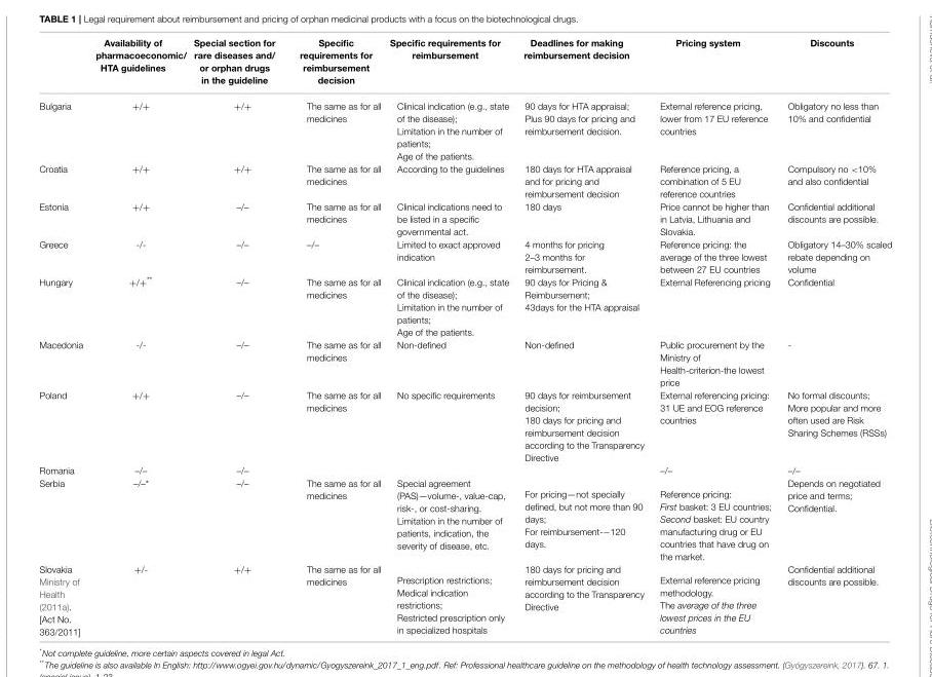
<table><thead><tr><td></td><td>Availability of pharmacoeconomic/ HTA guidelines</td><td>Special section for rare diseases and/ or orphan drugs in the guideline</td><td>Specific requirements for reimbursement decision</td><td>Specific requirements for reimbursement</td><td>Deadlines for making reimbursement decision</td><td>Pricing system</td><td>Discounts</td></tr></thead><tbody><tr><td>Bulgaria</td><td>+/+</td><td>+/+</td><td>The same as for all medicines</td><td>Clinical indication (e.g., state of the disease); Limitation in the number of patients; Age of the patients.</td><td>90 days for HTA appraisal; Plus 90 days for pricing and reimbursement decision.</td><td>External reference pricing, lower from 17 EU reference countries</td><td>Obligatory no less than 10% and confidential</td></tr><tr><td>Croatia</td><td>+/+</td><td>+/+</td><td>The same as for all medicines</td><td>According to the guidelines</td><td>180 days for HTA appraisal and for pricing and reimbursement decision</td><td>Reference pricing, a combination of 5 EU reference countries</td><td>Compulsory no &lt;10% and also confidential</td></tr><tr><td>Estonia</td><td>+/+</td><td>–/–</td><td>The same as for all medicines</td><td>Clinical indications need to be listed in a specific governmental act.</td><td>180 days</td><td>Price cannot be higher than in Latvia, Lithuania and Slovakia.</td><td>Confidential additional discounts are possible.</td></tr><tr><td>Greece</td><td>-/-</td><td>–/–</td><td>–/–</td><td>Limited to exact approved indication</td><td>4 months for pricing 2–3 months for reimbursement.</td><td>Reference pricing: the average of the three lowest between 27 EU countries</td><td>Obligatory 14–30% scaled rebate depending on volume</td></tr><tr><td>Hungary</td><td>+/+**</td><td>–/–</td><td>The same as for all medicines</td><td>Clinical indication (e.g., state of the disease); Limitation in the number of patients; Age of the patients.</td><td>90 days for Pricing &amp; Reimbursement; 43days for the HTA appraisal</td><td>External Referencing pricing</td><td>Confidential</td></tr><tr><td>Macedonia</td><td>-/-</td><td>–/–</td><td>The same as for all medicines</td><td>Non-defined</td><td>Non-defined</td><td>Public procurement by the Ministry of Health-criterion-the lowest price</td><td>-</td></tr><tr><td>Poland</td><td>+/+</td><td>–/–</td><td>The same as for all medicines</td><td>No specific requirements</td><td>90 days for reimbursement decision; 180 days for pricing and reimbursement decision according to the Transparency Directive</td><td>External referencing pricing: 31 UE and EOG reference countries</td><td>No formal discounts; More popular and more often used are Risk Sharing Schemes (RSSs)</td></tr><tr><td>Romania</td><td>–/–</td><td>–/–</td><td></td><td></td><td></td><td>–/–</td><td>–/–</td></tr><tr><td>Serbia</td><td>–/–*</td><td>–/–</td><td>The same as for all medicines</td><td>Special agreement (PAS)—volume-, value-cap, risk-, or cost-sharing. Limitation in the number of patients, indication, the severity of disease, etc.</td><td>For pricing—not specially defined, but not more than 90 days; For reimbursement-−120 days.</td><td>Reference pricing: First basket: 3 EU countries; Second basket: EU country manufacturing drug or EU countries that have drug on the market.</td><td>Depends on negotiated price and terms; Confidential.</td></tr><tr><td>Slovakia Ministry of Health (2011a). [Act No. 363/2011]</td><td>+/-</td><td>+/+</td><td>The same as for all medicines</td><td>Prescription restrictions; Medical indication restrictions; Restricted prescription only in specialized hospitals</td><td>180 days for pricing and reimbursement decision according to the Transparency Directive</td><td>External reference pricing methodology. The average of the three lowest prices in the EU countries</td><td>Confidential additional discounts are possible.</td></tr></tbody></table>